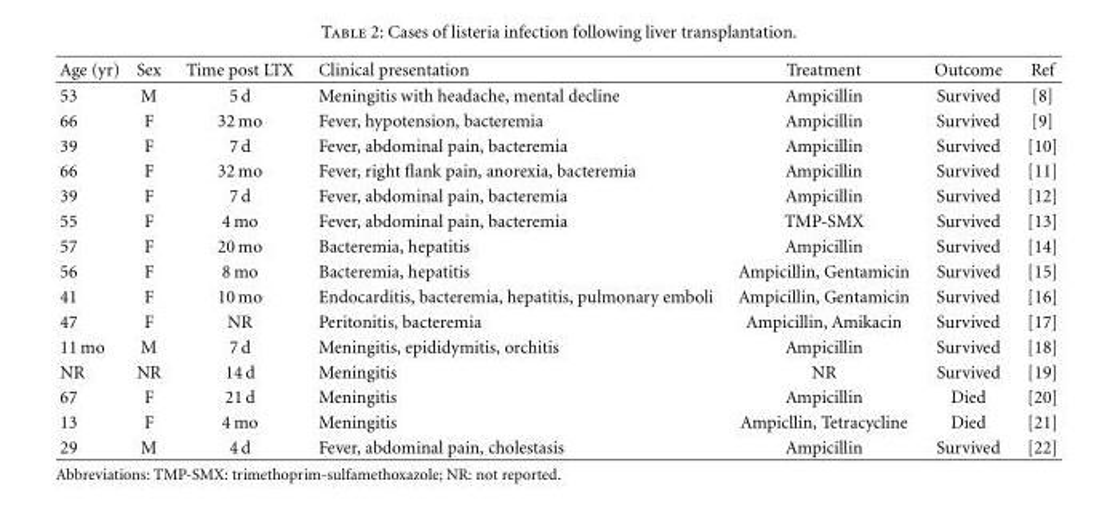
<table><thead><tr><td>Age (yr)</td><td>Sex</td><td>Time post LTX</td><td>Clinical presentation</td><td>Treatment</td><td>Outcome</td><td>Ref</td></tr></thead><tbody><tr><td>53</td><td>M</td><td>5 d</td><td>Meningitis with headache, mental decline</td><td>Ampicillin</td><td>Survived</td><td>[8]</td></tr><tr><td>66</td><td>F</td><td>32 mo</td><td>Fever, hypotension, bacteremia</td><td>Ampicillin</td><td>Survived</td><td>[9]</td></tr><tr><td>39</td><td>F</td><td>7 d</td><td>Fever, abdominal pain, bacteremia</td><td>Ampicillin</td><td>Survived</td><td>[10]</td></tr><tr><td>66</td><td>F</td><td>32 mo</td><td>Fever, right flank pain, anorexia, bacteremia</td><td>Ampicillin</td><td>Survived</td><td>[11]</td></tr><tr><td>39</td><td>F</td><td>7 d</td><td>Fever, abdominal pain, bacteremia</td><td>Ampicillin</td><td>Survived</td><td>[12]</td></tr><tr><td>55</td><td>F</td><td>4 mo</td><td>Fever, abdominal pain, bacteremia</td><td>TMP-SMX</td><td>Survived</td><td>[13]</td></tr><tr><td>57</td><td>F</td><td>20 mo</td><td>Bacteremia, hepatitis</td><td>Ampicillin</td><td>Survived</td><td>[14]</td></tr><tr><td>56</td><td>F</td><td>8 mo</td><td>Bacteremia, hepatitis</td><td>Ampicillin, Gentamicin</td><td>Survived</td><td>[15]</td></tr><tr><td>41</td><td>F</td><td>10 mo</td><td>Endocarditis, bacteremia, hepatitis, pulmonary emboli</td><td>Ampicillin, Gentamicin</td><td>Survived</td><td>[16]</td></tr><tr><td>47</td><td>F</td><td>NR</td><td>Peritonitis, bacteremia</td><td>Ampicillin, Amikacin</td><td>Survived</td><td>[17]</td></tr><tr><td>11 mo</td><td>M</td><td>7 d</td><td>Meningitis, epididymitis, orchitis</td><td>Ampicillin</td><td>Survived</td><td>[18]</td></tr><tr><td>NR</td><td>NR</td><td>14 d</td><td>Meningitis</td><td>NR</td><td>Survived</td><td>[19]</td></tr><tr><td>67</td><td>F</td><td>21 d</td><td>Meningitis</td><td>Ampicillin</td><td>Died</td><td>[20]</td></tr><tr><td>13</td><td>F</td><td>4 mo</td><td>Meningitis</td><td>Ampicllin, Tetracycline</td><td>Died</td><td>[21]</td></tr><tr><td>29</td><td>M</td><td>4 d</td><td>Fever, abdominal pain, cholestasis</td><td>Ampicillin</td><td>Survived</td><td>[22]</td></tr></tbody></table>